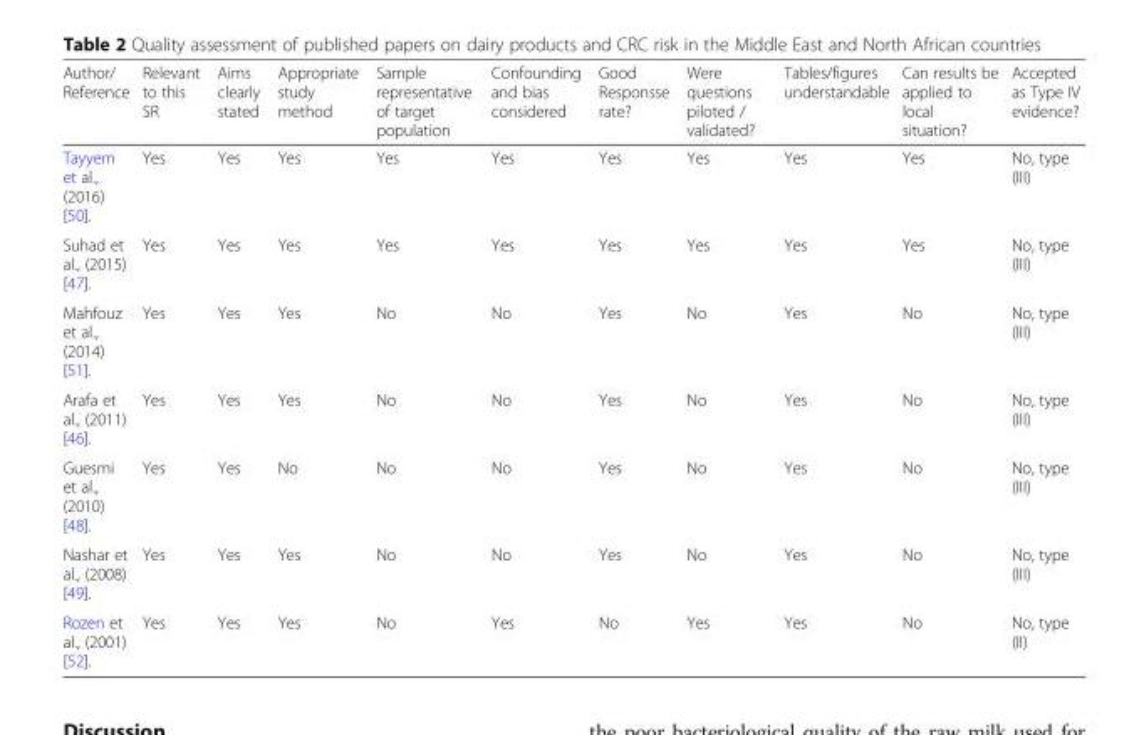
<table><thead><tr><td>Author/ Reference</td><td>Relevant to this SR</td><td>Aims clearly stated</td><td>Appropriate study method</td><td>Sample representative of target population</td><td>Confounding and bias considered</td><td>Good Responsse rate?</td><td>Were questions piloted / validated?</td><td>Tables/figures understandable</td><td>Can results be applied to local situation?</td><td>Accepted as Type IV evidence?</td></tr></thead><tbody><tr><td>Tayyem et al., (2016) [50].</td><td>Yes</td><td>Yes</td><td>Yes</td><td>Yes</td><td>Yes</td><td>Yes</td><td>Yes</td><td>Yes</td><td>Yes</td><td>No, type (III)</td></tr><tr><td>Suhad et al., (2015) [47].</td><td>Yes</td><td>Yes</td><td>Yes</td><td>Yes</td><td>Yes</td><td>Yes</td><td>Yes</td><td>Yes</td><td>Yes</td><td>No, type (III)</td></tr><tr><td>Mahfouz et al., (2014) [51].</td><td>Yes</td><td>Yes</td><td>Yes</td><td>No</td><td>No</td><td>Yes</td><td>No</td><td>Yes</td><td>No</td><td>No, type (III)</td></tr><tr><td>Arafa et al., (2011) [46].</td><td>Yes</td><td>Yes</td><td>Yes</td><td>No</td><td>No</td><td>Yes</td><td>No</td><td>Yes</td><td>No</td><td>No, type (III)</td></tr><tr><td>Guesmi et al., (2010) [48].</td><td>Yes</td><td>Yes</td><td>No</td><td>No</td><td>No</td><td>Yes</td><td>No</td><td>Yes</td><td>No</td><td>No, type (III)</td></tr><tr><td>Nashar et al., (2008) [49].</td><td>Yes</td><td>Yes</td><td>Yes</td><td>No</td><td>No</td><td>Yes</td><td>No</td><td>Yes</td><td>No</td><td>No, type (III)</td></tr><tr><td>Rozen et al., (2001) [52].</td><td>Yes</td><td>Yes</td><td>Yes</td><td>No</td><td>Yes</td><td>No</td><td>Yes</td><td>Yes</td><td>No</td><td>No, type (II)</td></tr></tbody></table>